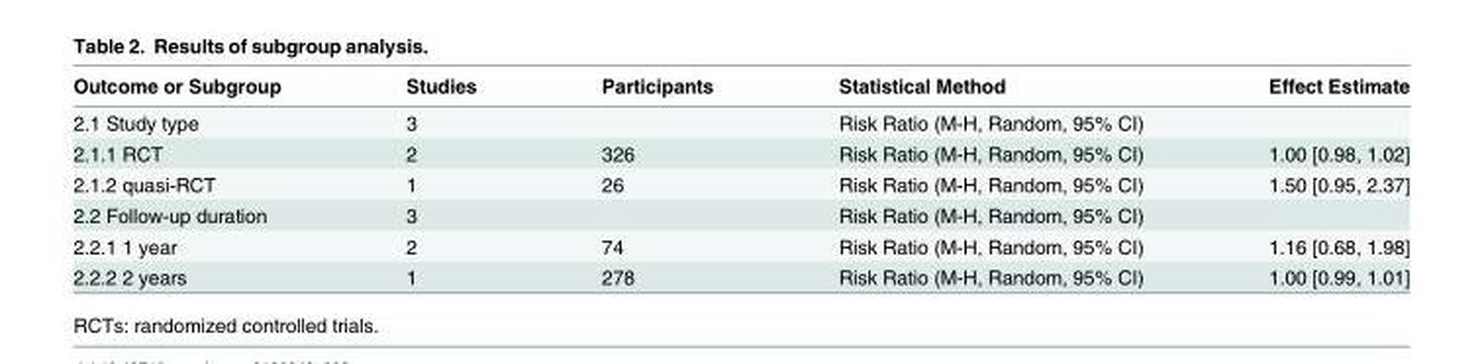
<table><thead><tr><td>Outcome or Subgroup</td><td>Studies</td><td>Participants</td><td>Statistical Method</td><td>Effect Estimate</td></tr></thead><tbody><tr><td>2.1 Study type</td><td>3</td><td></td><td>Risk Ratio (M-H, Random, 95% CI)</td><td></td></tr><tr><td>2.1.1 RCT</td><td>2</td><td>326</td><td>Risk Ratio (M-H, Random, 95% CI)</td><td>1.00 [0.98, 1.02]</td></tr><tr><td>2.1.2 quasi-RCT</td><td>1</td><td>26</td><td>Risk Ratio (M-H, Random, 95% CI)</td><td>1.50 [0.95, 2.37]</td></tr><tr><td>2.2 Follow-up duration</td><td>3</td><td></td><td>Risk Ratio (M-H, Random, 95% CI)</td><td></td></tr><tr><td>2.2.1 1 year</td><td>2</td><td>74</td><td>Risk Ratio (M-H, Random, 95% CI)</td><td>1.16 [0.68, 1.98]</td></tr><tr><td>2.2.2 2 years</td><td>1</td><td>278</td><td>Risk Ratio (M-H, Random, 95% CI)</td><td>1.00 [0.99, 1.01]</td></tr></tbody></table>